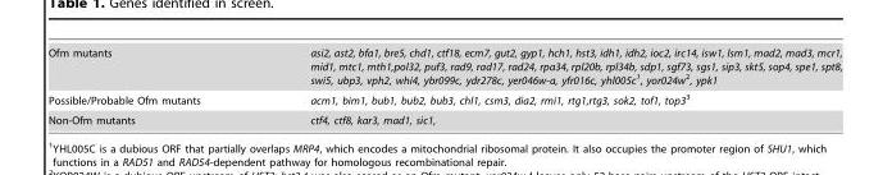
<table><tbody><tr><td>Ofm mutants</td><td>asi2, ast2, bfa1, bre5, chd1, ctf18, ecm7, gut2, gyp1, hch1, hst3, idh1, idh2, ioc2, irc14, isw1, lsm1, mad2, mad3, mcr1, mid1, mtc1, mth1,pol32, puf3, rad9, rad17, rad24, rpa34, rpl20b, rpl34b, sdp1, sgf73, sgs1, sip3, skt5, sop4, spe1, spt8, swi5, ubp3, vph2, whi4, ybr099c, ydr278c, yer046w-a, yfr016c, yhl005c1, yor024w2, ypk1</td></tr><tr><td>Possible/Probable Ofm mutants</td><td>acm1, bim1, bub1, bub2, bub3, chl1, csm3, dia2, rmi1, rtg1,rtg3, sok2, tof1, top33</td></tr><tr><td>Non-Ofm mutants</td><td>ctf4, ctf8, kar3, mad1, sic1,</td></tr></tbody></table>